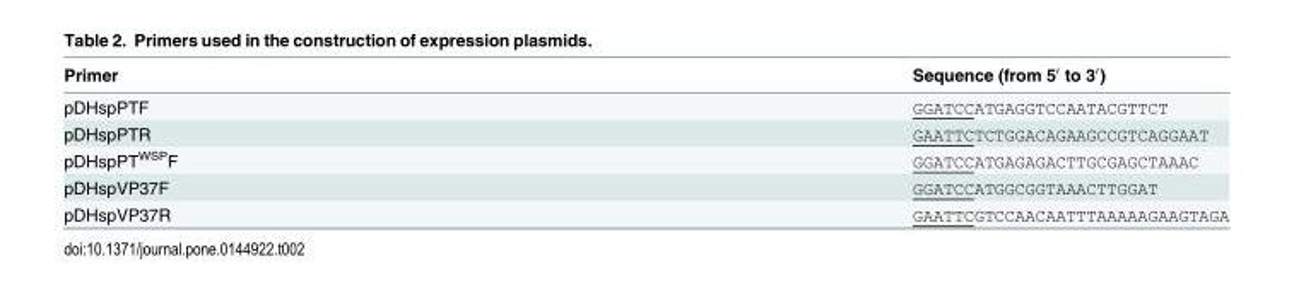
<table><thead><tr><td>Primer</td><td>Sequence (from 5′ to 3′)</td></tr></thead><tbody><tr><td>pDHspPTF</td><td>GGATCCATGAGGTCCAATACGTTCT</td></tr><tr><td>pDHspPTR</td><td>GAATTCTCTGGACAGAAGCCGTCAGGAAT</td></tr><tr><td>pDHspPT<sup>WSP</sup>F</td><td>GGATCCATGAGAGACTTGCGAGCTAAAC</td></tr><tr><td>pDHspVP37F</td><td>GGATCCATGGCGGTAAACTTGGAT</td></tr><tr><td>pDHspVP37R</td><td>GAATTCGTCCAACAATTTAAAAAGAAGTAGA</td></tr></tbody></table>